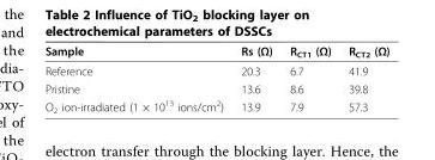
<table><thead><tr><td>Sample</td><td>Rs (Ω)</td><td>R<sub>CT1</sub> (Ω)</td><td>R<sub>CT2</sub> (Ω)</td></tr></thead><tbody><tr><td>Reference</td><td>20.3</td><td>6.7</td><td>41.9</td></tr><tr><td>Pristine</td><td>13.6</td><td>8.6</td><td>39.8</td></tr><tr><td>O<sub>2</sub> ion-irradiated (1 × 10<sup>13</sup> ions/cm<sup>2</sup>)</td><td>13.9</td><td>7.9</td><td>57.3</td></tr></tbody></table>